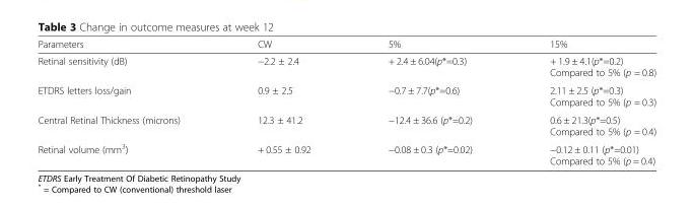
<table><thead><tr><td>Parameters</td><td>CW</td><td>5%</td><td>15%</td></tr></thead><tbody><tr><td>Retinal sensitivity (dB)</td><td>−2.2 ± 2.4</td><td>+ 2.4 ± 6.04(p*=0.3)</td><td>+ 1.9 ± 4.1(p*=0.2) Compared to 5% (p = 0.8)</td></tr><tr><td>ETDRS letters loss/gain</td><td>0.9 ± 2.5</td><td>−0.7 ± 7.7(p*=0.6)</td><td>2.11 ± 2.5 (p*=0.3) Compared to 5% (p = 0.3)</td></tr><tr><td>Central Retinal Thickness (microns)</td><td>12.3 ± 41.2</td><td>−12.4 ± 36.6 (p*=0.2)</td><td>0.6 ± 21.3(p*=0.5) Compared to 5% (p = 0.4)</td></tr><tr><td>Retinal volume (mm<sup>3</sup>)</td><td>+ 0.55 ± 0.92</td><td>−0.08 ± 0.3 (p*=0.02)</td><td>−0.12 ± 0.11 (p*=0.01) Compared to 5% (p = 0.4)</td></tr></tbody></table>